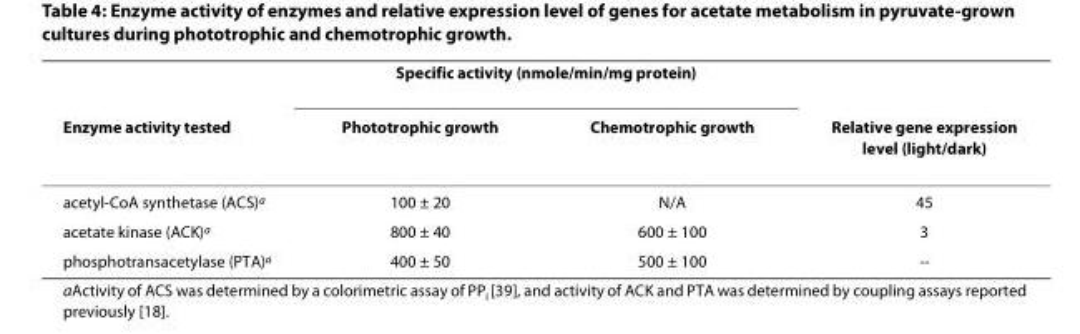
<table><thead><tr><td rowspan="2">Enzyme activity tested</td><td colspan="2">Specific activity (nmole/min/mg protein)</td><td rowspan="2">Relative gene expression level (light/dark)</td></tr><tr><td>Phototrophic growth</td><td>Chemotrophic growth</td></tr></thead><tbody><tr><td>acetyl-CoA synthetase (ACS)<sup>a</sup></td><td>100 ± 20</td><td>N/A</td><td>45</td></tr><tr><td>acetate kinase (ACK)<sup>a</sup></td><td>800 ± 40</td><td>600 ± 100</td><td>3</td></tr><tr><td>phosphotransacetylase (PTA)<sup>a</sup></td><td>400 ± 50</td><td>500 ± 100</td><td>--</td></tr></tbody></table>